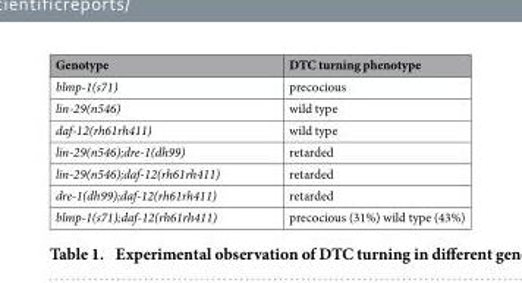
<table><thead><tr><td>Genotype</td><td>DTC turning phenotype</td></tr></thead><tbody><tr><td>blmp-1(s71)</td><td>precocious</td></tr><tr><td>lin-29(n546)</td><td>wild type</td></tr><tr><td>daf-12(rh61rh411)</td><td>wild type</td></tr><tr><td>lin-29(n546);dre-1(dh99)</td><td>retarded</td></tr><tr><td>lin-29(n546);daf-12(rh61rh411)</td><td>retarded</td></tr><tr><td>dre-1(dh99);daf-12(rh61rh411)</td><td>retarded</td></tr><tr><td>blmp-1(s71);daf-12(rh61rh411)</td><td>precocious (31%) wild type (43%)</td></tr></tbody></table>